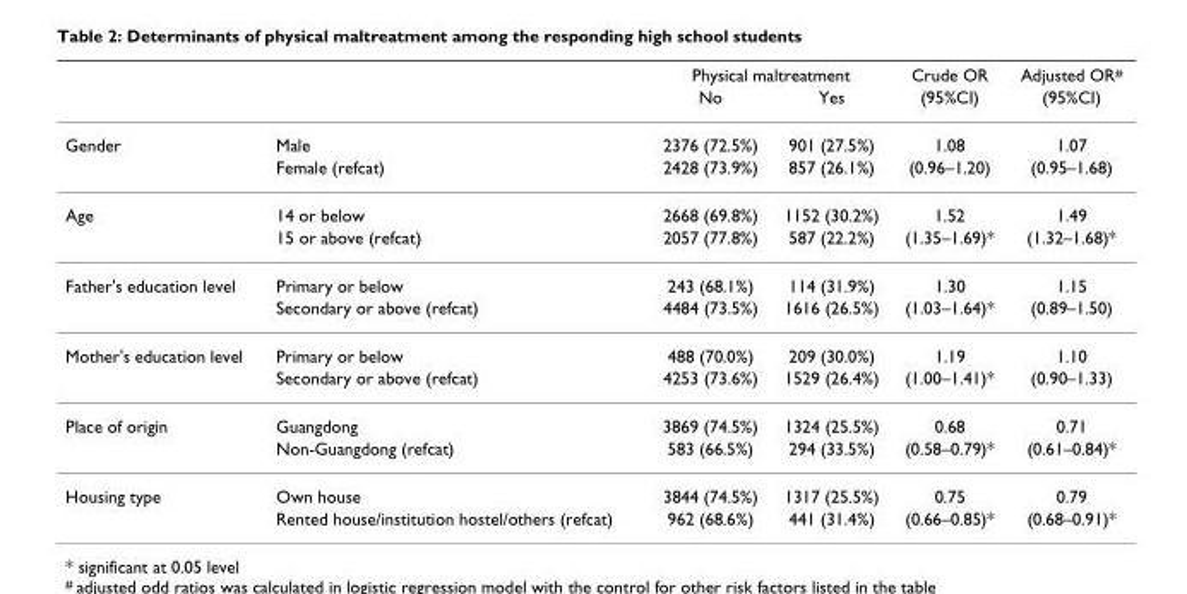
<table><thead><tr><td rowspan="2"></td><td rowspan="2"></td><td colspan="2">Physical maltreatment</td><td rowspan="2">Crude OR (95%CI)</td><td rowspan="2">Adjusted OR<sup>#</sup> (95%CI)</td></tr><tr><td>No</td><td>Yes</td></tr></thead><tbody><tr><td rowspan="2">Gender</td><td>Male</td><td>2376 (72.5%)</td><td>901 (27.5%)</td><td>1.08</td><td>1.07</td></tr><tr><td>Female (refcat)</td><td>2428 (73.9%)</td><td>857 (26.1%)</td><td>(0.96–1.20)</td><td>(0.95–1.68)</td></tr><tr><td rowspan="2">Age</td><td>14 or below</td><td>2668 (69.8%)</td><td>1152 (30.2%)</td><td>1.52</td><td>1.49</td></tr><tr><td>15 or above (refcat)</td><td>2057 (77.8%)</td><td>587 (22.2%)</td><td>(1.35–1.69)*</td><td>(1.32–1.68)*</td></tr><tr><td rowspan="2">Father&#x27;s education level</td><td>Primary or below</td><td>243 (68.1%)</td><td>114 (31.9%)</td><td>1.30</td><td>1.15</td></tr><tr><td>Secondary or above (refcat)</td><td>4484 (73.5%)</td><td>1616 (26.5%)</td><td>(1.03–1.64)*</td><td>(0.89–1.50)</td></tr><tr><td rowspan="2">Mother&#x27;s education level</td><td>Primary or below</td><td>488 (70.0%)</td><td>209 (30.0%)</td><td>1.19</td><td>1.10</td></tr><tr><td>Secondary or above (refcat)</td><td>4253 (73.6%)</td><td>1529 (26.4%)</td><td>(1.00–1.41)*</td><td>(0.90–1.33)</td></tr><tr><td rowspan="2">Place of origin</td><td>Guangdong</td><td>3869 (74.5%)</td><td>1324 (25.5%)</td><td>0.68</td><td>0.71</td></tr><tr><td>Non-Guangdong (refcat)</td><td>583 (66.5%)</td><td>294 (33.5%)</td><td>(0.58–0.79)*</td><td>(0.61–0.84)*</td></tr><tr><td rowspan="2">Housing type</td><td>Own house</td><td>3844 (74.5%)</td><td>1317 (25.5%)</td><td>0.75</td><td>0.79</td></tr><tr><td>Rented house/institution hostel/others (refcat)</td><td>962 (68.6%)</td><td>441 (31.4%)</td><td>(0.66–0.85)*</td><td>(0.68–0.91)*</td></tr></tbody></table>